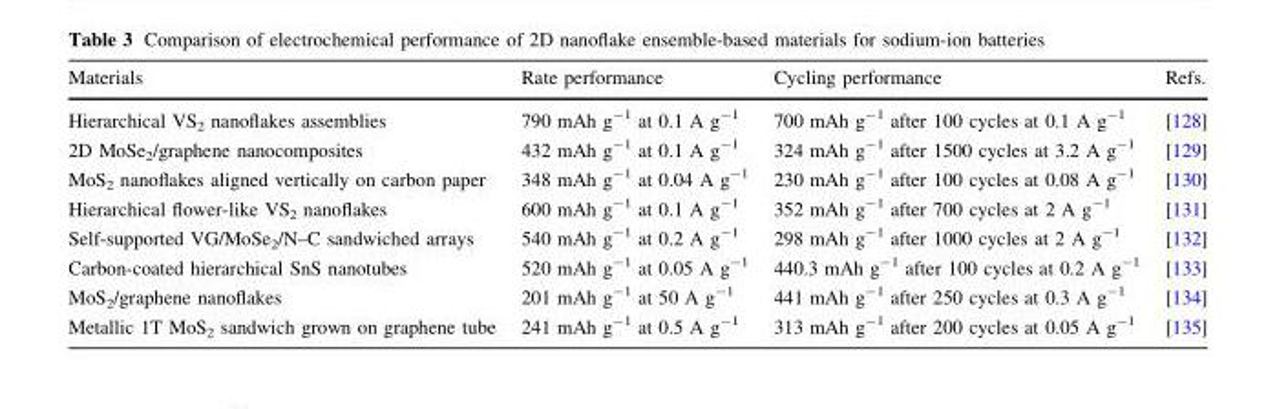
<table><thead><tr><td>Materials</td><td>Rate performance</td><td>Cycling performance</td><td>Refs.</td></tr></thead><tbody><tr><td>Hierarchical VS<sub>2</sub> nanoflakes assemblies</td><td>790 mAh g<sup>-1</sup> at 0.1 A g<sup>-1</sup></td><td>700 mAh g<sup>-1</sup> after 100 cycles at 0.1 A g<sup>-1</sup></td><td>[128]</td></tr><tr><td>2D MoSe<sub>2</sub>/graphene nanocomposites</td><td>432 mAh g<sup>-1</sup> at 0.1 A g<sup>-1</sup></td><td>324 mAh g<sup>-1</sup> after 1500 cycles at 3.2 A g<sup>-1</sup></td><td>[129]</td></tr><tr><td>MoS<sub>2</sub> nanoflakes aligned vertically on carbon paper</td><td>348 mAh g<sup>-1</sup> at 0.04 A g<sup>-1</sup></td><td>230 mAh g<sup>-1</sup> after 100 cycles at 0.08 A g<sup>-1</sup></td><td>[130]</td></tr><tr><td>Hierarchical flower-like VS<sub>2</sub> nanoflakes</td><td>600 mAh g<sup>-1</sup> at 0.1 A g<sup>-1</sup></td><td>352 mAh g<sup>-1</sup> after 700 cycles at 2 A g<sup>-1</sup></td><td>[131]</td></tr><tr><td>Self-supported VG/MoSe<sub>2</sub>/N–C sandwiched arrays</td><td>540 mAh g<sup>-1</sup> at 0.2 A g<sup>-1</sup></td><td>298 mAh g<sup>-1</sup> after 1000 cycles at 2 A g<sup>-1</sup></td><td>[132]</td></tr><tr><td>Carbon-coated hierarchical SnS nanotubes</td><td>520 mAh g<sup>-1</sup> at 0.05 A g<sup>-1</sup></td><td>440.3 mAh g<sup>-1</sup> after 100 cycles at 0.2 A g<sup>-1</sup></td><td>[133]</td></tr><tr><td>MoS<sub>2</sub>/graphene nanoflakes</td><td>201 mAh g<sup>-1</sup> at 50 A g<sup>-1</sup></td><td>441 mAh g<sup>-1</sup> after 250 cycles at 0.3 A g<sup>-1</sup></td><td>[134]</td></tr><tr><td>Metallic 1T MoS<sub>2</sub> sandwich grown on graphene tube</td><td>241 mAh g<sup>-1</sup> at 0.5 A g<sup>-1</sup></td><td>313 mAh g<sup>-1</sup> after 200 cycles at 0.05 A g<sup>-1</sup></td><td>[135]</td></tr></tbody></table>